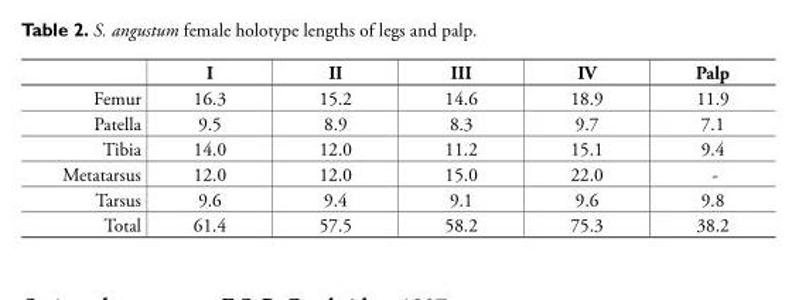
<table><thead><tr><td></td><td>I</td><td>II</td><td>III</td><td>IV</td><td>Palp</td></tr></thead><tbody><tr><td>Femur</td><td>16.3</td><td>15.2</td><td>14.6</td><td>18.9</td><td>11.9</td></tr><tr><td>Patella</td><td>9.5</td><td>8.9</td><td>8.3</td><td>9.7</td><td>7.1</td></tr><tr><td>Tibia</td><td>14.0</td><td>12.0</td><td>11.2</td><td>15.1</td><td>9.4</td></tr><tr><td>Metatarsus</td><td>12.0</td><td>12.0</td><td>15.0</td><td>22.0</td><td>-</td></tr><tr><td>Tarsus</td><td>9.6</td><td>9.4</td><td>9.1</td><td>9.6</td><td>9.8</td></tr><tr><td>Total</td><td>61.4</td><td>57.5</td><td>58.2</td><td>75.3</td><td>38.2</td></tr></tbody></table>